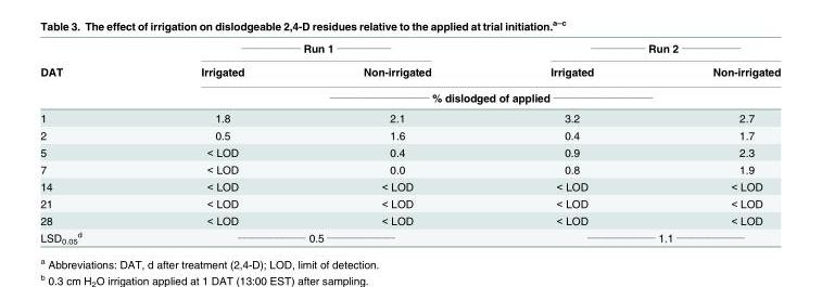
<table><thead><tr><td rowspan="3">DAT</td><td colspan="2"><sup>_____________</sup> Run 1 <sup>____________</sup></td><td colspan="2"><sup>____________</sup> Run 2 <sup>_____________</sup></td></tr><tr><td>Irrigated</td><td>Non-irrigated</td><td>Irrigated</td><td>Non-irrigated</td></tr><tr><td colspan="4">______________________ % dislodged of applied ______________________</td></tr></thead><tbody><tr><td>1</td><td>1.8</td><td>2.1</td><td>3.2</td><td>2.7</td></tr><tr><td>2</td><td>0.5</td><td>1.6</td><td>0.4</td><td>1.7</td></tr><tr><td>5</td><td>&lt; LOD</td><td>0.4</td><td>0.9</td><td>2.3</td></tr><tr><td>7</td><td>&lt; LOD</td><td>0.0</td><td>0.8</td><td>1.9</td></tr><tr><td>14</td><td>&lt; LOD</td><td>&lt; LOD</td><td>&lt; LOD</td><td>&lt; LOD</td></tr><tr><td>21</td><td>&lt; LOD</td><td>&lt; LOD</td><td>&lt; LOD</td><td>&lt; LOD</td></tr><tr><td>28</td><td>&lt; LOD</td><td>&lt; LOD</td><td>&lt; LOD</td><td>&lt; LOD</td></tr><tr><td>LSD<sub>0.05</sub> <sup>d</sup></td><td colspan="2"><sup>_______________</sup> 0.5 <sup>_______________</sup></td><td colspan="2"><sup>_______________</sup> 1.1 <sup>_______________</sup></td></tr></tbody></table>